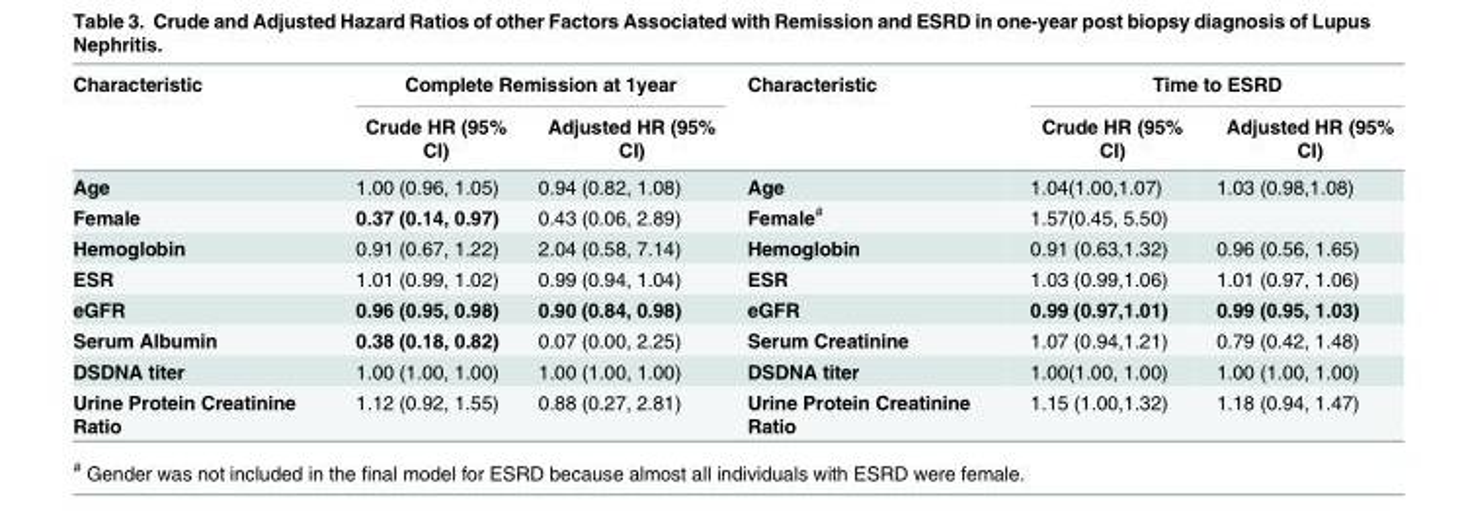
<table><thead><tr><td rowspan="2">Characteristic</td><td colspan="2">Complete Remission at 1year</td><td rowspan="2">Characteristic</td><td colspan="2">Time to ESRD</td></tr><tr><td>Crude HR (95% CI)</td><td>Adjusted HR (95% CI)</td><td>Crude HR (95% CI)</td><td>Adjusted HR (95% CI)</td></tr></thead><tbody><tr><td>Age</td><td>1.00 (0.96, 1.05)</td><td>0.94 (0.82, 1.08)</td><td>Age</td><td>1.04(1.00,1.07)</td><td>1.03 (0.98,1.08)</td></tr><tr><td>Female</td><td>0.37 (0.14, 0.97)</td><td>0.43 (0.06, 2.89)</td><td>Female<sup>#</sup></td><td>1.57(0.45, 5.50)</td><td></td></tr><tr><td>Hemoglobin</td><td>0.91 (0.67, 1.22)</td><td>2.04 (0.58, 7.14)</td><td>Hemoglobin</td><td>0.91 (0.63,1.32)</td><td>0.96 (0.56, 1.65)</td></tr><tr><td>ESR</td><td>1.01 (0.99, 1.02)</td><td>0.99 (0.94, 1.04)</td><td>ESR</td><td>1.03 (0.99,1.06)</td><td>1.01 (0.97, 1.06)</td></tr><tr><td>eGFR</td><td>0.96 (0.95, 0.98)</td><td>0.90 (0.84, 0.98)</td><td>eGFR</td><td>0.99 (0.97,1.01)</td><td>0.99 (0.95, 1.03)</td></tr><tr><td>Serum Albumin</td><td>0.38 (0.18, 0.82)</td><td>0.07 (0.00, 2.25)</td><td>Serum Creatinine</td><td>1.07 (0.94,1.21)</td><td>0.79 (0.42, 1.48)</td></tr><tr><td>DSDNA titer</td><td>1.00 (1.00, 1.00)</td><td>1.00 (1.00, 1.00)</td><td>DSDNA titer</td><td>1.00(1.00, 1.00)</td><td>1.00 (1.00, 1.00)</td></tr><tr><td>Urine Protein Creatinine Ratio</td><td>1.12 (0.92, 1.55)</td><td>0.88 (0.27, 2.81)</td><td>Urine Protein Creatinine Ratio</td><td>1.15 (1.00,1.32)</td><td>1.18 (0.94, 1.47)</td></tr></tbody></table>